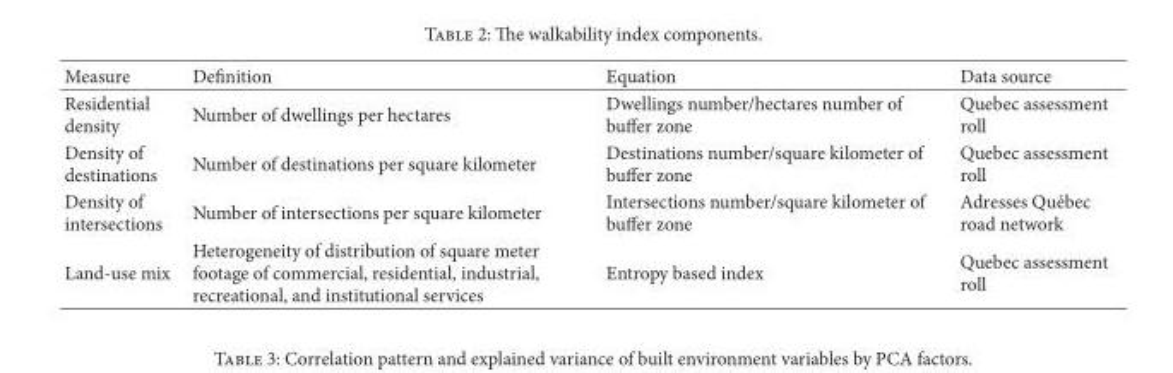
<table><thead><tr><td>Measure</td><td>Definition</td><td>Equation</td><td>Data source</td></tr></thead><tbody><tr><td>Residential density</td><td>Number of dwellings per hectares</td><td>Dwellings number/hectares number of buffer zone</td><td>Quebec assessment roll</td></tr><tr><td>Density of destinations</td><td>Number of destinations per square kilometer</td><td>Destinations number/square kilometer of buffer zone</td><td>Quebec assessment roll</td></tr><tr><td>Density of intersections</td><td>Number of intersections per square kilometer</td><td>Intersections number/square kilometer of buffer zone</td><td>Adresses Qu´ebec road network</td></tr><tr><td>Land-use mix</td><td>Heterogeneity of distribution of square meter footage of commercial, residential, industrial, recreational, and institutional services</td><td>Entropy based index</td><td>Quebec assessment roll</td></tr></tbody></table>